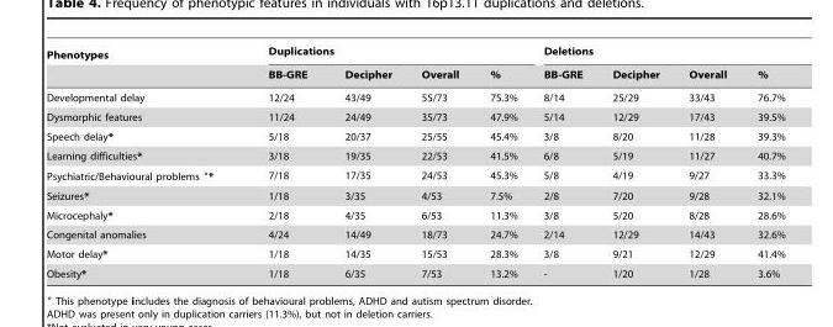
<table><thead><tr><td rowspan="2">Phenotypes</td><td colspan="4">Duplications</td><td colspan="4">Deletions</td></tr><tr><td>BB-GRE</td><td>Decipher</td><td>Overall</td><td>%</td><td>BB-GRE</td><td>Decipher</td><td>Overall</td><td>%</td></tr></thead><tbody><tr><td>Developmental delay</td><td>12/24</td><td>43/49</td><td>55/73</td><td>75.3%</td><td>8/14</td><td>25/29</td><td>33/43</td><td>76.7%</td></tr><tr><td>Dysmorphic features</td><td>11/24</td><td>24/49</td><td>35/73</td><td>47.9%</td><td>5/14</td><td>12/29</td><td>17/43</td><td>39.5%</td></tr><tr><td>Speech delay*</td><td>5/18</td><td>20/37</td><td>25/55</td><td>45.4%</td><td>3/8</td><td>8/20</td><td>11/28</td><td>39.3%</td></tr><tr><td>Learning difficulties*</td><td>3/18</td><td>19/35</td><td>22/53</td><td>41.5%</td><td>6/8</td><td>5/19</td><td>11/27</td><td>40.7%</td></tr><tr><td>Psychiatric/Behavioural problems °*</td><td>7/18</td><td>17/35</td><td>24/53</td><td>45.3%</td><td>5/8</td><td>4/19</td><td>9/27</td><td>33.3%</td></tr><tr><td>Seizures*</td><td>1/18</td><td>3/35</td><td>4/53</td><td>7.5%</td><td>2/8</td><td>7/20</td><td>9/28</td><td>32.1%</td></tr><tr><td>Microcephaly*</td><td>2/18</td><td>4/35</td><td>6/53</td><td>11.3%</td><td>3/8</td><td>5/20</td><td>8/28</td><td>28.6%</td></tr><tr><td>Congenital anomalies</td><td>4/24</td><td>14/49</td><td>18/73</td><td>24.7%</td><td>2/14</td><td>12/29</td><td>14/43</td><td>32.6%</td></tr><tr><td>Motor delay*</td><td>1/18</td><td>14/35</td><td>15/53</td><td>28.3%</td><td>3/8</td><td>9/21</td><td>12/29</td><td>41.4%</td></tr><tr><td>Obesity*</td><td>1/18</td><td>6/35</td><td>7/53</td><td>13.2%</td><td>-</td><td>1/20</td><td>1/28</td><td>3.6%</td></tr></tbody></table>